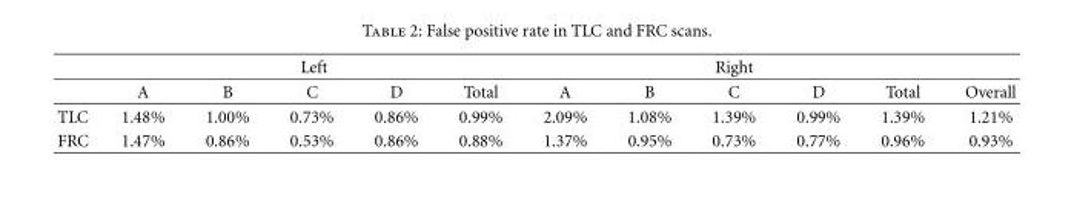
<table><thead><tr><td rowspan="2"></td><td colspan="5">Left</td><td colspan="5">Right</td><td rowspan="2">Overall</td></tr><tr><td>A</td><td>B</td><td>C</td><td>D</td><td>Total</td><td>A</td><td>B</td><td>C</td><td>D</td><td>Total</td></tr></thead><tbody><tr><td>TLC</td><td>1.48%</td><td>1.00%</td><td>0.73%</td><td>0.86%</td><td>0.99%</td><td>2.09%</td><td>1.08%</td><td>1.39%</td><td>0.99%</td><td>1.39%</td><td>1.21%</td></tr><tr><td>FRC</td><td>1.47%</td><td>0.86%</td><td>0.53%</td><td>0.86%</td><td>0.88%</td><td>1.37%</td><td>0.95%</td><td>0.73%</td><td>0.77%</td><td>0.96%</td><td>0.93%</td></tr></tbody></table>